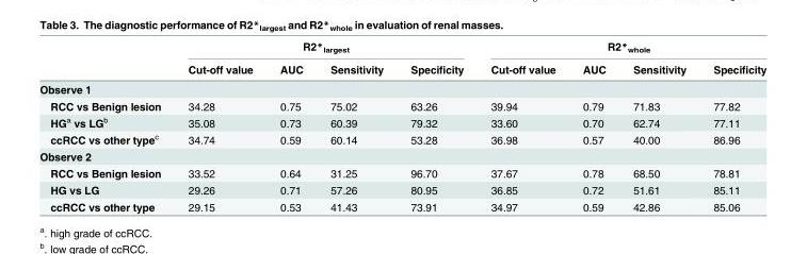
<table><thead><tr><td rowspan="2"></td><td colspan="4">R2*<sub>largest</sub></td><td colspan="4">R2*<sub>whole</sub></td></tr><tr><td>Cut-off value</td><td>AUC</td><td>Sensitivity</td><td>Specificity</td><td>Cut-off value</td><td>AUC</td><td>Sensitivity</td><td>Specificity</td></tr></thead><tbody><tr><td colspan="9">Observe 1</td></tr><tr><td>RCC vs Benign lesion</td><td>34.28</td><td>0.75</td><td>75.02</td><td>63.26</td><td>39.94</td><td>0.79</td><td>71.83</td><td>77.82</td></tr><tr><td>HG<sup>a</sup> vs LG<sup>b</sup></td><td>35.08</td><td>0.73</td><td>60.39</td><td>79.32</td><td>33.60</td><td>0.70</td><td>62.74</td><td>77.11</td></tr><tr><td>ccRCC vs other type<sup>c</sup></td><td>34.74</td><td>0.59</td><td>60.14</td><td>53.28</td><td>36.98</td><td>0.57</td><td>40.00</td><td>86.96</td></tr><tr><td colspan="9">Observe 2</td></tr><tr><td>RCC vs Benign lesion</td><td>33.52</td><td>0.64</td><td>31.25</td><td>96.70</td><td>37.67</td><td>0.78</td><td>68.50</td><td>78.81</td></tr><tr><td>HG vs LG</td><td>29.26</td><td>0.71</td><td>57.26</td><td>80.95</td><td>36.85</td><td>0.72</td><td>51.61</td><td>85.11</td></tr><tr><td>ccRCC vs other type</td><td>29.15</td><td>0.53</td><td>41.43</td><td>73.91</td><td>34.97</td><td>0.59</td><td>42.86</td><td>85.06</td></tr></tbody></table>